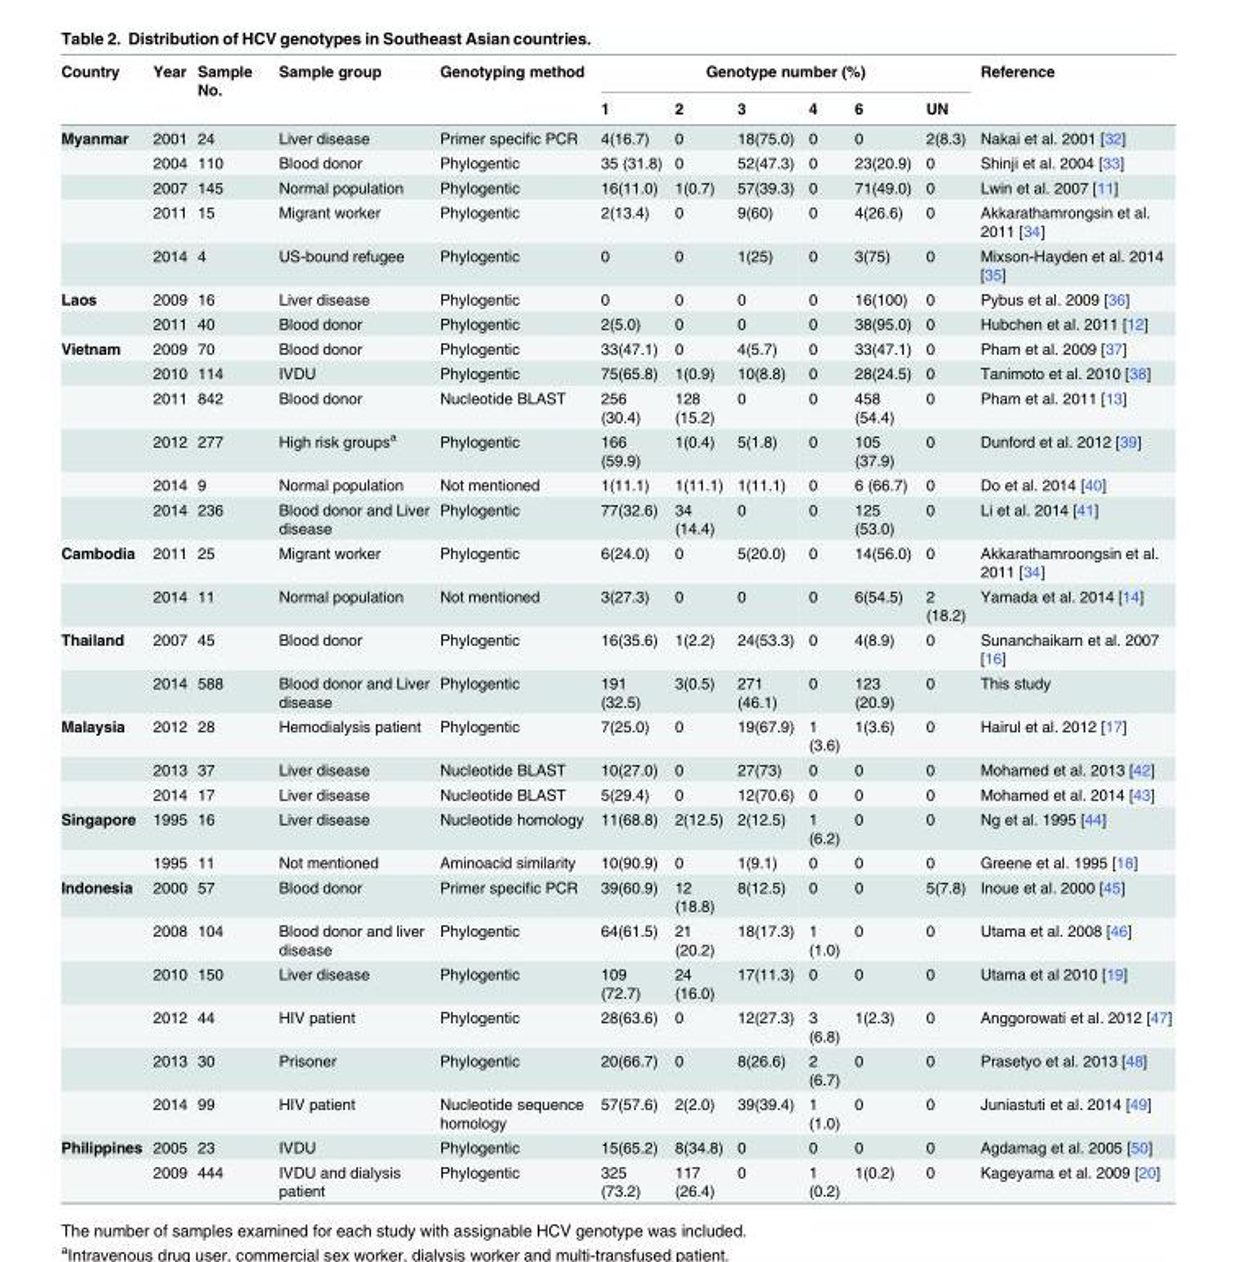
<table><thead><tr><td rowspan="2">Country</td><td rowspan="2">Year</td><td rowspan="2">Sample No.</td><td rowspan="2">Sample group</td><td rowspan="2">Genotyping method</td><td colspan="6">Genotype number (%)</td><td rowspan="2">Reference</td></tr><tr><td>1</td><td>2</td><td>3</td><td>4</td><td>6</td><td>UN</td></tr></thead><tbody><tr><td rowspan="5">Myanmar</td><td>2001</td><td>24</td><td>Liver disease</td><td>Primer specific PCR</td><td>4(16.7)</td><td>0</td><td>18(75.0)</td><td>0</td><td>0</td><td>2(8.3)</td><td>Nakai et al. 2001 [32]</td></tr><tr><td>2004</td><td>110</td><td>Blood donor</td><td>Phylogentic</td><td>35 (31.8)</td><td>0</td><td>52(47.3)</td><td>0</td><td>23(20.9)</td><td>0</td><td>Shinji et al. 2004 [33]</td></tr><tr><td>2007</td><td>145</td><td>Normal population</td><td>Phylogentic</td><td>16(11.0)</td><td>1(0.7)</td><td>57(39.3)</td><td>0</td><td>71(49.0)</td><td>0</td><td>Lwin et al. 2007 [11]</td></tr><tr><td>2011</td><td>15</td><td>Migrant worker</td><td>Phylogentic</td><td>2(13.4)</td><td>0</td><td>9(60)</td><td>0</td><td>4(26.6)</td><td>0</td><td>Akkarathamrongsin et al. 2011 [34]</td></tr><tr><td>2014</td><td>4</td><td>US-bound refugee</td><td>Phylogentic</td><td>0</td><td>0</td><td>1(25)</td><td>0</td><td>3(75)</td><td>0</td><td>Mixson-Hayden et al. 2014 [35]</td></tr><tr><td rowspan="2">Laos</td><td>2009</td><td>16</td><td>Liver disease</td><td>Phylogentic</td><td>0</td><td>0</td><td>0</td><td>0</td><td>16(100)</td><td>0</td><td>Pybus et al. 2009 [36]</td></tr><tr><td>2011</td><td>40</td><td>Blood donor</td><td>Phylogentic</td><td>2(5.0)</td><td>0</td><td>0</td><td>0</td><td>38(95.0)</td><td>0</td><td>Hubchen et al. 2011 [12]</td></tr><tr><td rowspan="6">Vietnam</td><td>2009</td><td>70</td><td>Blood donor</td><td>Phylogentic</td><td>33(47.1)</td><td>0</td><td>4(5.7)</td><td>0</td><td>33(47.1)</td><td>0</td><td>Pham et al. 2009 [37]</td></tr><tr><td>2010</td><td>114</td><td>IVDU</td><td>Phylogentic</td><td>75(65.8)</td><td>1(0.9)</td><td>10(8.8)</td><td>0</td><td>28(24.5)</td><td>0</td><td>Tanimoto et al. 2010 [38]</td></tr><tr><td>2011</td><td>842</td><td>Blood donor</td><td>Nucleotide BLAST</td><td>256 (30.4)</td><td>128 (15.2)</td><td>0</td><td>0</td><td>458 (54.4)</td><td>0</td><td>Pham et al. 2011 [13]</td></tr><tr><td>2012</td><td>277</td><td>High risk groups<sup>a</sup></td><td>Phylogentic</td><td>166 (59.9)</td><td>1(0.4)</td><td>5(1.8)</td><td>0</td><td>105 (37.9)</td><td>0</td><td>Dunford et al. 2012 [39]</td></tr><tr><td>2014</td><td>9</td><td>Normal population</td><td>Not mentioned</td><td>1(11.1)</td><td>1(11.1)</td><td>1(11.1)</td><td>0</td><td>6 (66.7)</td><td>0</td><td>Do et al. 2014 [40]</td></tr><tr><td>2014</td><td>236</td><td>Blood donor and Liver disease</td><td>Phylogentic</td><td>77(32.6)</td><td>34 (14.4)</td><td>0</td><td>0</td><td>125 (53.0)</td><td>0</td><td>Li et al. 2014 [41]</td></tr><tr><td rowspan="2">Cambodia</td><td>2011</td><td>25</td><td>Migrant worker</td><td>Phylogentic</td><td>6(24.0)</td><td>0</td><td>5(20.0)</td><td>0</td><td>14(56.0)</td><td>0</td><td>Akkarathamroongsin et al. 2011 [34]</td></tr><tr><td>2014</td><td>11</td><td>Normal population</td><td>Not mentioned</td><td>3(27.3)</td><td>0</td><td>0</td><td>0</td><td>6(54.5)</td><td>2 (18.2)</td><td>Yamada et al. 2014 [14]</td></tr><tr><td rowspan="2">Thailand</td><td>2007</td><td>45</td><td>Blood donor</td><td>Phylogentic</td><td>16(35.6)</td><td>1(2.2)</td><td>24(53.3)</td><td>0</td><td>4(8.9)</td><td>0</td><td>Sunanchaikarn et al. 2007 [16]</td></tr><tr><td>2014</td><td>588</td><td>Blood donor and Liver disease</td><td>Phylogentic</td><td>191 (32.5)</td><td>3(0.5)</td><td>271 (46.1)</td><td>0</td><td>123 (20.9)</td><td>0</td><td>This study</td></tr><tr><td rowspan="3">Malaysia</td><td>2012</td><td>28</td><td>Hemodialysis patient</td><td>Phylogentic</td><td>7(25.0)</td><td>0</td><td>19(67.9)</td><td>1 (3.6)</td><td>1(3.6)</td><td>0</td><td>Hairul et al. 2012 [17]</td></tr><tr><td>2013</td><td>37</td><td>Liver disease</td><td>Nucleotide BLAST</td><td>10(27.0)</td><td>0</td><td>27(73)</td><td>0</td><td>0</td><td>0</td><td>Mohamed et al. 2013 [42]</td></tr><tr><td>2014</td><td>17</td><td>Liver disease</td><td>Nucleotide BLAST</td><td>5(29.4)</td><td>0</td><td>12(70.6)</td><td>0</td><td>0</td><td>0</td><td>Mohamed et al. 2014 [43]</td></tr><tr><td rowspan="2">Singapore</td><td>1995</td><td>16</td><td>Liver disease</td><td>Nucleotide homology</td><td>11(68.8)</td><td>2(12.5)</td><td>2(12.5)</td><td>1 (6.2)</td><td>0</td><td>0</td><td>Ng et al. 1995 [44]</td></tr><tr><td>1995</td><td>11</td><td>Not mentioned</td><td>Aminoacid similarity</td><td>10(90.9)</td><td>0</td><td>1(9.1)</td><td>0</td><td>0</td><td>0</td><td>Greene et al. 1995 [18]</td></tr><tr><td rowspan="6">Indonesia</td><td>2000</td><td>57</td><td>Blood donor</td><td>Primer specific PCR</td><td>39(60.9)</td><td>12 (18.8)</td><td>8(12.5)</td><td>0</td><td>0</td><td>5(7.8)</td><td>Inoue et al. 2000 [45]</td></tr><tr><td>2008</td><td>104</td><td>Blood donor and liver disease</td><td>Phylogentic</td><td>64(61.5)</td><td>21 (20.2)</td><td>18(17.3)</td><td>1 (1.0)</td><td>0</td><td>0</td><td>Utama et al. 2008 [46]</td></tr><tr><td>2010</td><td>150</td><td>Liver disease</td><td>Phylogentic</td><td>109 (72.7)</td><td>24 (16.0)</td><td>17(11.3)</td><td>0</td><td>0</td><td>0</td><td>Utama et al 2010 [19]</td></tr><tr><td>2012</td><td>44</td><td>HIV patient</td><td>Phylogentic</td><td>28(63.6)</td><td>0</td><td>12(27.3)</td><td>3 (6.8)</td><td>1(2.3)</td><td>0</td><td>Anggorowati et al. 2012 [47]</td></tr><tr><td>2013</td><td>30</td><td>Prisoner</td><td>Phylogentic</td><td>20(66.7)</td><td>0</td><td>8(26.6)</td><td>2 (6.7)</td><td>0</td><td>0</td><td>Prasetyo et al. 2013 [48]</td></tr><tr><td>2014</td><td>99</td><td>HIV patient</td><td>Nucleotide sequence homology</td><td>57(57.6)</td><td>2(2.0)</td><td>39(39.4)</td><td>1 (1.0)</td><td>0</td><td>0</td><td>Juniastuti et al. 2014 [49]</td></tr><tr><td rowspan="2">Philippines</td><td>2005</td><td>23</td><td>IVDU</td><td>Phylogentic</td><td>15(65.2)</td><td>8(34.8)</td><td>0</td><td>0</td><td>0</td><td>0</td><td>Agdamag et al. 2005 [50]</td></tr><tr><td>2009</td><td>444</td><td>IVDU and dialysis patient</td><td>Phylogentic</td><td>325 (73.2)</td><td>117 (26.4)</td><td>0</td><td>1 (0.2)</td><td>1(0.2)</td><td>0</td><td>Kageyama et al. 2009 [20]</td></tr></tbody></table>